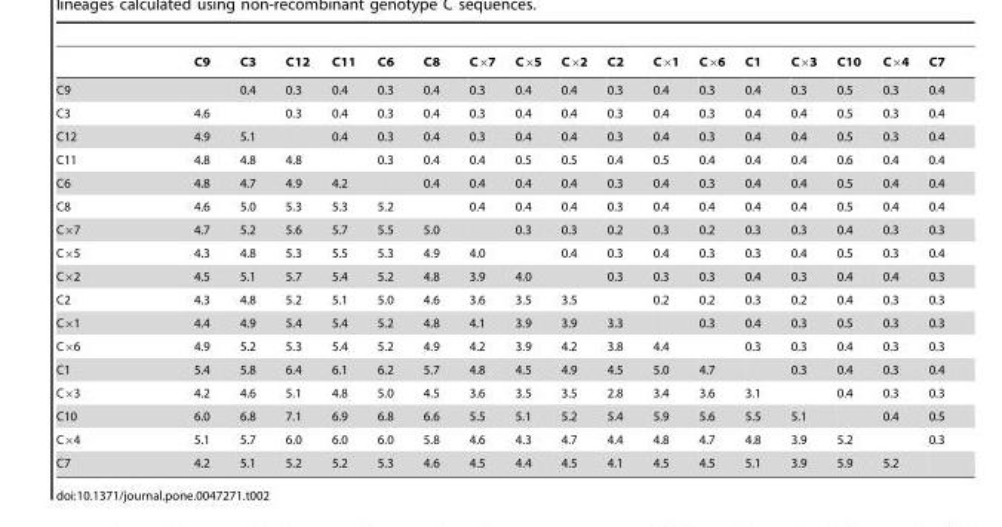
<table><thead><tr><td></td><td>C9</td><td>C3</td><td>C12</td><td>C11</td><td>C6</td><td>C8</td><td>C×7</td><td>C×5</td><td>C×2</td><td>C2</td><td>C×1</td><td>C×6</td><td>C1</td><td>C×3</td><td>C10</td><td>C×4</td><td>C7</td></tr></thead><tbody><tr><td>C9</td><td></td><td>0.4</td><td>0.3</td><td>0.4</td><td>0.3</td><td>0.4</td><td>0.3</td><td>0.4</td><td>0.4</td><td>0.3</td><td>0.4</td><td>0.3</td><td>0.4</td><td>0.3</td><td>0.5</td><td>0.3</td><td>0.4</td></tr><tr><td>C3</td><td>4.6</td><td></td><td>0.3</td><td>0.4</td><td>0.3</td><td>0.4</td><td>0.3</td><td>0.4</td><td>0.4</td><td>0.3</td><td>0.4</td><td>0.3</td><td>0.4</td><td>0.4</td><td>0.5</td><td>0.3</td><td>0.4</td></tr><tr><td>C12</td><td>4.9</td><td>5.1</td><td></td><td>0.4</td><td>0.3</td><td>0.4</td><td>0.3</td><td>0.4</td><td>0.4</td><td>0.3</td><td>0.4</td><td>0.3</td><td>0.4</td><td>0.4</td><td>0.5</td><td>0.3</td><td>0.4</td></tr><tr><td>C11</td><td>4.8</td><td>4.8</td><td>4.8</td><td></td><td>0.3</td><td>0.4</td><td>0.4</td><td>0.5</td><td>0.5</td><td>0.4</td><td>0.5</td><td>0.4</td><td>0.4</td><td>0.4</td><td>0.6</td><td>0.4</td><td>0.4</td></tr><tr><td>C6</td><td>4.8</td><td>4.7</td><td>4.9</td><td>4.2</td><td></td><td>0.4</td><td>0.4</td><td>0.4</td><td>0.4</td><td>0.3</td><td>0.4</td><td>0.3</td><td>0.4</td><td>0.4</td><td>0.5</td><td>0.4</td><td>0.4</td></tr><tr><td>C8</td><td>4.6</td><td>5.0</td><td>5.3</td><td>5.3</td><td>5.2</td><td></td><td>0.4</td><td>0.4</td><td>0.4</td><td>0.3</td><td>0.4</td><td>0.4</td><td>0.4</td><td>0.4</td><td>0.5</td><td>0.4</td><td>0.4</td></tr><tr><td>C×7</td><td>4.7</td><td>5.2</td><td>5.6</td><td>5.7</td><td>5.5</td><td>5.0</td><td></td><td>0.3</td><td>0.3</td><td>0.2</td><td>0.3</td><td>0.2</td><td>0.3</td><td>0.3</td><td>0.4</td><td>0.3</td><td>0.3</td></tr><tr><td>C×5</td><td>4.3</td><td>4.8</td><td>5.3</td><td>5.5</td><td>5.3</td><td>4.9</td><td>4.0</td><td></td><td>0.4</td><td>0.3</td><td>0.4</td><td>0.3</td><td>0.3</td><td>0.4</td><td>0.5</td><td>0.3</td><td>0.4</td></tr><tr><td>C×2</td><td>4.5</td><td>5.1</td><td>5.7</td><td>5.4</td><td>5.2</td><td>4.8</td><td>3.9</td><td>4.0</td><td></td><td>0.3</td><td>0.3</td><td>0.3</td><td>0.4</td><td>0.3</td><td>0.4</td><td>0.4</td><td>0.3</td></tr><tr><td>C2</td><td>4.3</td><td>4.8</td><td>5.2</td><td>5.1</td><td>5.0</td><td>4.6</td><td>3.6</td><td>3.5</td><td>3.5</td><td></td><td>0.2</td><td>0.2</td><td>0.3</td><td>0.2</td><td>0.4</td><td>0.3</td><td>0.3</td></tr><tr><td>C×1</td><td>4.4</td><td>4.9</td><td>5.4</td><td>5.4</td><td>5.2</td><td>4.8</td><td>4.1</td><td>3.9</td><td>3.9</td><td>3.3</td><td></td><td>0.3</td><td>0.4</td><td>0.3</td><td>0.5</td><td>0.3</td><td>0.3</td></tr><tr><td>C×6</td><td>4.9</td><td>5.2</td><td>5.3</td><td>5.4</td><td>5.2</td><td>4.9</td><td>4.2</td><td>3.9</td><td>4.2</td><td>3.8</td><td>4.4</td><td></td><td>0.3</td><td>0.3</td><td>0.4</td><td>0.3</td><td>0.3</td></tr><tr><td>C1</td><td>5.4</td><td>5.8</td><td>6.4</td><td>6.1</td><td>6.2</td><td>5.7</td><td>4.8</td><td>4.5</td><td>4.9</td><td>4.5</td><td>5.0</td><td>4.7</td><td></td><td>0.3</td><td>0.4</td><td>0.3</td><td>0.4</td></tr><tr><td>C×3</td><td>4.2</td><td>4.6</td><td>5.1</td><td>4.8</td><td>5.0</td><td>4.5</td><td>3.6</td><td>3.5</td><td>3.5</td><td>2.8</td><td>3.4</td><td>3.6</td><td>3.1</td><td></td><td>0.4</td><td>0.3</td><td>0.3</td></tr><tr><td>C10</td><td>6.0</td><td>6.8</td><td>7.1</td><td>6.9</td><td>6.8</td><td>6.6</td><td>5.5</td><td>5.1</td><td>5.2</td><td>5.4</td><td>5.9</td><td>5.6</td><td>5.5</td><td>5.1</td><td></td><td>0.4</td><td>0.5</td></tr><tr><td>C×4</td><td>5.1</td><td>5.7</td><td>6.0</td><td>6.0</td><td>6.0</td><td>5.8</td><td>4.6</td><td>4.3</td><td>4.7</td><td>4.4</td><td>4.8</td><td>4.7</td><td>4.8</td><td>3.9</td><td>5.2</td><td></td><td>0.3</td></tr><tr><td>C7</td><td>4.2</td><td>5.1</td><td>5.2</td><td>5.2</td><td>5.3</td><td>4.6</td><td>4.5</td><td>4.4</td><td>4.5</td><td>4.1</td><td>4.5</td><td>4.5</td><td>5.1</td><td>3.9</td><td>5.9</td><td>5.2</td><td></td></tr></tbody></table>